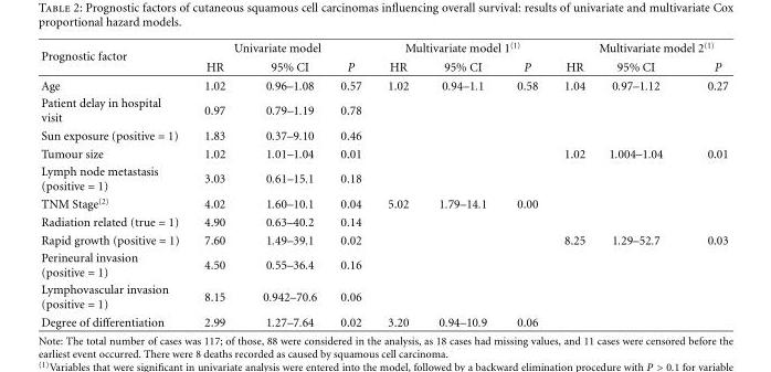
<table><thead><tr><td rowspan="2">Prognostic factor</td><td colspan="3">Univariate model</td><td colspan="3">Multivariate model 1<sup>(1)</sup></td><td colspan="3">Multivariate model 2<sup>(1)</sup></td></tr><tr><td>HR</td><td>95% CI</td><td>P</td><td>HR</td><td>95% CI</td><td>P</td><td>HR</td><td>95% CI</td><td>P</td></tr></thead><tbody><tr><td>Age</td><td>1.02</td><td>0.96–1.08</td><td>0.57</td><td>1.02</td><td>0.94–1.1</td><td>0.58</td><td>1.04</td><td>0.97–1.12</td><td>0.27</td></tr><tr><td>Patient delay in hospital visit</td><td>0.97</td><td>0.79–1.19</td><td>0.78</td><td></td><td></td><td></td><td></td><td></td><td></td></tr><tr><td>Sun exposure (positive = 1)</td><td>1.83</td><td>0.37–9.10</td><td>0.46</td><td></td><td></td><td></td><td></td><td></td><td></td></tr><tr><td>Tumour size</td><td>1.02</td><td>1.01–1.04</td><td>0.01</td><td></td><td></td><td></td><td>1.02</td><td>1.004–1.04</td><td>0.01</td></tr><tr><td>Lymph node metastasis (positive = 1)</td><td>3.03</td><td>0.61–15.1</td><td>0.18</td><td></td><td></td><td></td><td></td><td></td><td></td></tr><tr><td>TNM Stage<sup>(2)</sup></td><td>4.02</td><td>1.60–10.1</td><td>0.04</td><td>5.02</td><td>1.79–14.1</td><td>0.00</td><td></td><td></td><td></td></tr><tr><td>Radiation related (true = 1)</td><td>4.90</td><td>0.63–40.2</td><td>0.14</td><td></td><td></td><td></td><td></td><td></td><td></td></tr><tr><td>Rapid growth (positive = 1)</td><td>7.60</td><td>1.49–39.1</td><td>0.02</td><td></td><td></td><td></td><td>8.25</td><td>1.29–52.7</td><td>0.03</td></tr><tr><td>Perineural invasion (positive = 1)</td><td>4.50</td><td>0.55–36.4</td><td>0.16</td><td></td><td></td><td></td><td></td><td></td><td></td></tr><tr><td>Lymphovascular invasion (positive = 1)</td><td>8.15</td><td>0.942–70.6</td><td>0.06</td><td></td><td></td><td></td><td></td><td></td><td></td></tr><tr><td>Degree of differentiation</td><td>2.99</td><td>1.27–7.64</td><td>0.02</td><td>3.20</td><td>0.94–10.9</td><td>0.06</td><td></td><td></td><td></td></tr></tbody></table>